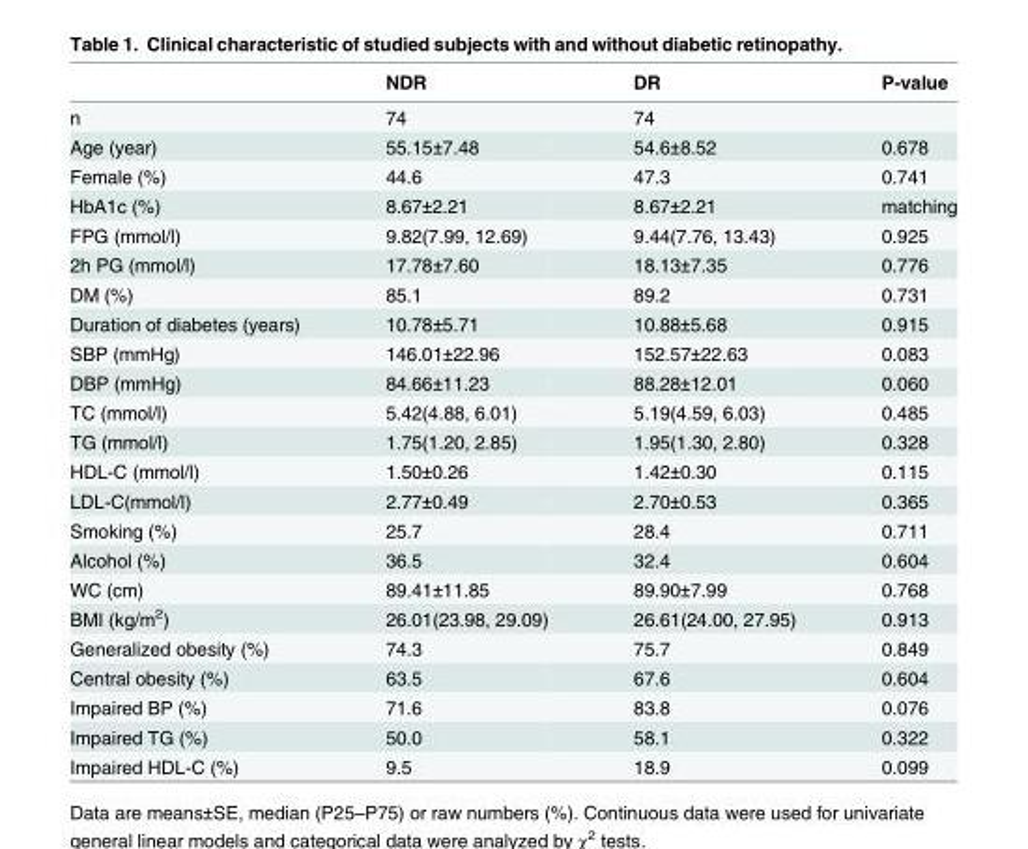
<table><thead><tr><td></td><td>NDR</td><td>DR</td><td>P-value</td></tr></thead><tbody><tr><td>n</td><td>74</td><td>74</td><td></td></tr><tr><td>Age (year)</td><td>55.15±7.48</td><td>54.6±8.52</td><td>0.678</td></tr><tr><td>Female (%)</td><td>44.6</td><td>47.3</td><td>0.741</td></tr><tr><td>HbA1c (%)</td><td>8.67±2.21</td><td>8.67±2.21</td><td>matching</td></tr><tr><td>FPG (mmol/l)</td><td>9.82(7.99, 12.69)</td><td>9.44(7.76, 13.43)</td><td>0.925</td></tr><tr><td>2h PG (mmol/l)</td><td>17.78±7.60</td><td>18.13±7.35</td><td>0.776</td></tr><tr><td>DM (%)</td><td>85.1</td><td>89.2</td><td>0.731</td></tr><tr><td>Duration of diabetes (years)</td><td>10.78±5.71</td><td>10.88±5.68</td><td>0.915</td></tr><tr><td>SBP (mmHg)</td><td>146.01±22.96</td><td>152.57±22.63</td><td>0.083</td></tr><tr><td>DBP (mmHg)</td><td>84.66±11.23</td><td>88.28±12.01</td><td>0.060</td></tr><tr><td>TC (mmol/l)</td><td>5.42(4.88, 6.01)</td><td>5.19(4.59, 6.03)</td><td>0.485</td></tr><tr><td>TG (mmol/l)</td><td>1.75(1.20, 2.85)</td><td>1.95(1.30, 2.80)</td><td>0.328</td></tr><tr><td>HDL-C (mmol/l)</td><td>1.50±0.26</td><td>1.42±0.30</td><td>0.115</td></tr><tr><td>LDL-C(mmol/l)</td><td>2.77±0.49</td><td>2.70±0.53</td><td>0.365</td></tr><tr><td>Smoking (%)</td><td>25.7</td><td>28.4</td><td>0.711</td></tr><tr><td>Alcohol (%)</td><td>36.5</td><td>32.4</td><td>0.604</td></tr><tr><td>WC (cm)</td><td>89.41±11.85</td><td>89.90±7.99</td><td>0.768</td></tr><tr><td>BMI (kg/m<sup>2</sup>)</td><td>26.01(23.98, 29.09)</td><td>26.61(24.00, 27.95)</td><td>0.913</td></tr><tr><td>Generalized obesity (%)</td><td>74.3</td><td>75.7</td><td>0.849</td></tr><tr><td>Central obesity (%)</td><td>63.5</td><td>67.6</td><td>0.604</td></tr><tr><td>Impaired BP (%)</td><td>71.6</td><td>83.8</td><td>0.076</td></tr><tr><td>Impaired TG (%)</td><td>50.0</td><td>58.1</td><td>0.322</td></tr><tr><td>Impaired HDL-C (%)</td><td>9.5</td><td>18.9</td><td>0.099</td></tr></tbody></table>